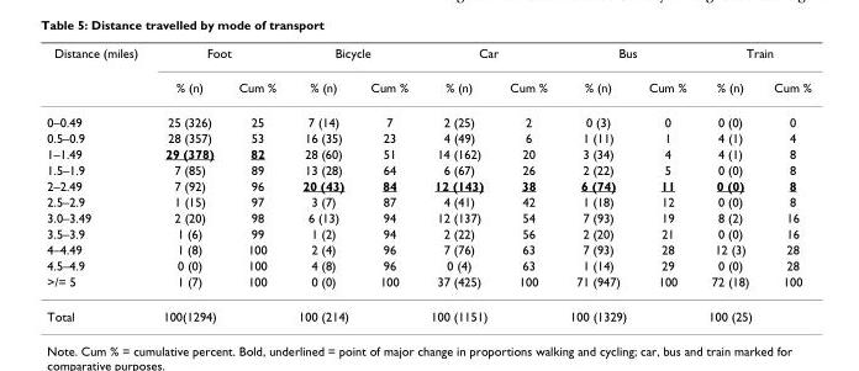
<table><thead><tr><td rowspan="2">Distance (miles)</td><td colspan="2">Foot</td><td colspan="2">Bicycle</td><td colspan="2">Car</td><td colspan="2">Bus</td><td colspan="2">Train</td></tr><tr><td>% (n)</td><td>Cum %</td><td>% (n)</td><td>Cum %</td><td>% (n)</td><td>Cum %</td><td>% (n)</td><td>Cum %</td><td>% (n)</td><td>Cum %</td></tr></thead><tbody><tr><td>0–0.49</td><td>25 (326)</td><td>25</td><td>7 (14)</td><td>7</td><td>2 (25)</td><td>2</td><td>0 (3)</td><td>0</td><td>0 (0)</td><td>0</td></tr><tr><td>0.5–0.9</td><td>28 (357)</td><td>53</td><td>16 (35)</td><td>23</td><td>4 (49)</td><td>6</td><td>1 (11)</td><td>1</td><td>4 (1)</td><td>4</td></tr><tr><td>1–1.49</td><td>29 (378)</td><td>82</td><td>28 (60)</td><td>51</td><td>14 (162)</td><td>20</td><td>3 (34)</td><td>4</td><td>4 (1)</td><td>8</td></tr><tr><td>1.5–1.9</td><td>7 (85)</td><td>89</td><td>13 (28)</td><td>64</td><td>6 (67)</td><td>26</td><td>2 (22)</td><td>5</td><td>0 (0)</td><td>8</td></tr><tr><td>2–2.49</td><td>7 (92)</td><td>96</td><td>20 (43)</td><td>84</td><td>12 (143)</td><td>38</td><td>6 (74)</td><td>11</td><td>0 (0)</td><td>8</td></tr><tr><td>2.5–2.9</td><td>1 (15)</td><td>97</td><td>3 (7)</td><td>87</td><td>4 (41)</td><td>42</td><td>1 (18)</td><td>12</td><td>0 (0)</td><td>8</td></tr><tr><td>3.0–3.49</td><td>2 (20)</td><td>98</td><td>6 (13)</td><td>94</td><td>12 (137)</td><td>54</td><td>7 (93)</td><td>19</td><td>8 (2)</td><td>16</td></tr><tr><td>3.5–3.9</td><td>1 (6)</td><td>99</td><td>1 (2)</td><td>94</td><td>2 (22)</td><td>56</td><td>2 (20)</td><td>21</td><td>0 (0)</td><td>16</td></tr><tr><td>4–4.49</td><td>1 (8)</td><td>100</td><td>2 (4)</td><td>96</td><td>7 (76)</td><td>63</td><td>7 (93)</td><td>28</td><td>12 (3)</td><td>28</td></tr><tr><td>4.5–4.9</td><td>0 (0)</td><td>100</td><td>4 (8)</td><td>96</td><td>0 (4)</td><td>63</td><td>1 (14)</td><td>29</td><td>0 (0)</td><td>28</td></tr><tr><td>&gt;/= 5</td><td>1 (7)</td><td>100</td><td>0 (0)</td><td>100</td><td>37 (425)</td><td>100</td><td>71 (947)</td><td>100</td><td>72 (18)</td><td>100</td></tr><tr><td>Total</td><td>100(1294)</td><td></td><td>100 (214)</td><td></td><td>100 (1151)</td><td></td><td>100 (1329)</td><td></td><td>100 (25)</td><td></td></tr></tbody></table>